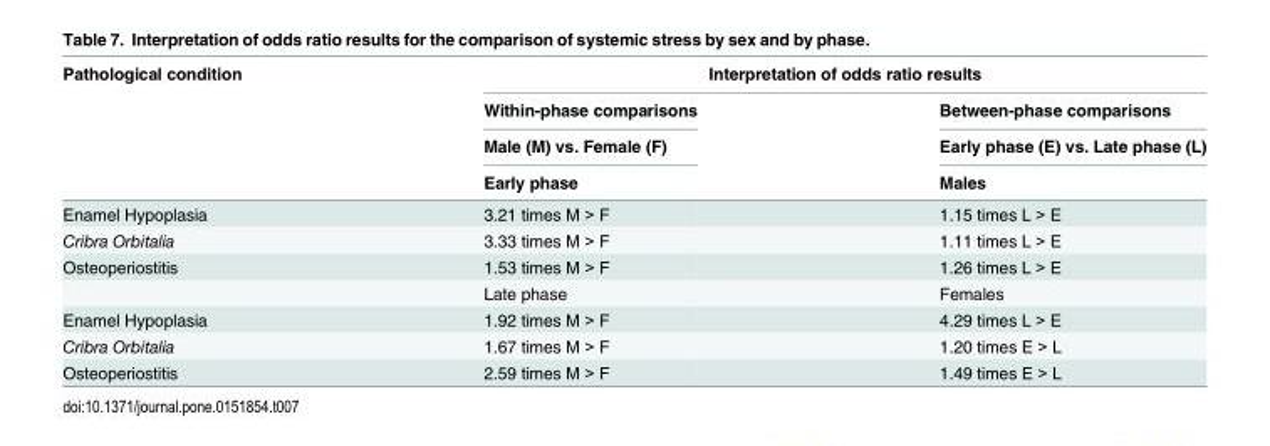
<table><thead><tr><td rowspan="4">Pathological condition</td><td colspan="2">Interpretation of odds ratio results</td></tr><tr><td rowspan="3">Within-phase comparisons Male (M) vs. Female (F) Early phase</td><td rowspan="3">Between-phase comparisons Early phase (E) vs. Late phase (L) Males</td></tr><tr></tr><tr></tr></thead><tbody><tr><td>Enamel Hypoplasia</td><td>3.21 times M &gt; F</td><td>1.15 times L &gt; E</td></tr><tr><td>Cribra Orbitalia</td><td>3.33 times M &gt; F</td><td>1.11 times L &gt; E</td></tr><tr><td rowspan="2">Osteoperiostitis</td><td>1.53 times M &gt; F</td><td>1.26 times L &gt; E</td></tr><tr><td>Late phase</td><td>Females</td></tr><tr><td>Enamel Hypoplasia</td><td>1.92 times M &gt; F</td><td>4.29 times L &gt; E</td></tr><tr><td>Cribra Orbitalia</td><td>1.67 times M &gt; F</td><td>1.20 times E &gt; L</td></tr><tr><td>Osteoperiostitis</td><td>2.59 times M &gt; F</td><td>1.49 times E &gt; L</td></tr></tbody></table>